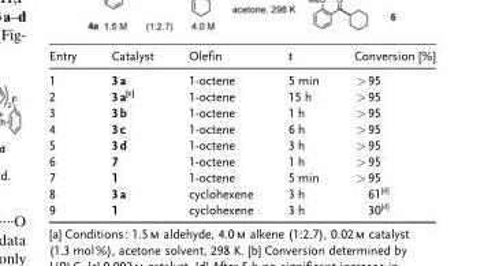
<table><thead><tr><td>Entry</td><td>Catalyst</td><td>Olefin</td><td>t</td><td>Conversion [%]</td></tr></thead><tbody><tr><td>1</td><td>3a</td><td>1-octene</td><td>5 min</td><td>&gt;95</td></tr><tr><td>2</td><td>3a<sup>[c]</sup></td><td>1-octene</td><td>15 h</td><td>&gt;95</td></tr><tr><td>3</td><td>3b</td><td>1-octene</td><td>1 h</td><td>&gt;95</td></tr><tr><td>4</td><td>3c</td><td>1-octene</td><td>6 h</td><td>&gt;95</td></tr><tr><td>5</td><td>3d</td><td>1-octene</td><td>3 h</td><td>&gt;95</td></tr><tr><td>6</td><td>7</td><td>1-octene</td><td>1 h</td><td>&gt;95</td></tr><tr><td>7</td><td>1</td><td>1-octene</td><td>5 min</td><td>&gt;95</td></tr><tr><td>8</td><td>3a</td><td>cyclohexene</td><td>3 h</td><td>61<sup>[d]</sup></td></tr><tr><td>9</td><td>1</td><td>cyclohexene</td><td>3 h</td><td>30<sup>[d]</sup></td></tr></tbody></table>